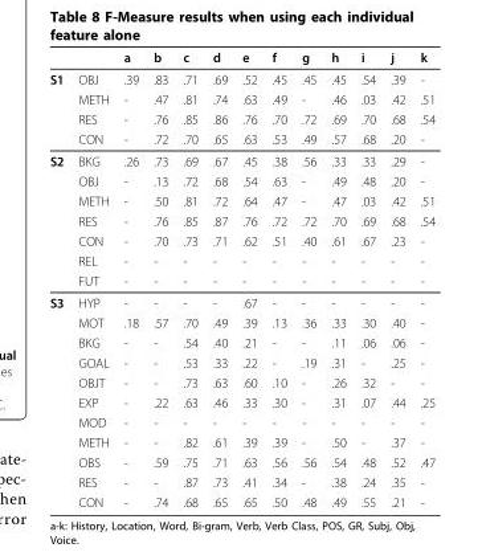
<table><thead><tr><td></td><td></td><td>a</td><td>b</td><td>c</td><td>d</td><td>e</td><td>f</td><td>g</td><td>h</td><td>i</td><td>j</td><td>k</td></tr></thead><tbody><tr><td rowspan="4">S1</td><td>OBJ</td><td>.39</td><td>.83</td><td>.71</td><td>.69</td><td>.52</td><td>.45</td><td>.45</td><td>.45</td><td>.54</td><td>.39</td><td>-</td></tr><tr><td>METH</td><td>-</td><td>.47</td><td>.81</td><td>.74</td><td>.63</td><td>.49</td><td>-</td><td>.46</td><td>.03</td><td>.42</td><td>.51</td></tr><tr><td>RES</td><td>-</td><td>.76</td><td>.85</td><td>.86</td><td>.76</td><td>.70</td><td>.72</td><td>.69</td><td>.70</td><td>.68</td><td>.54</td></tr><tr><td>CON</td><td>-</td><td>.72</td><td>.70</td><td>.65</td><td>.63</td><td>.53</td><td>.49</td><td>.57</td><td>.68</td><td>.20</td><td>-</td></tr><tr><td rowspan="7">S2</td><td>BKG</td><td>.26</td><td>.73</td><td>.69</td><td>.67</td><td>.45</td><td>.38</td><td>.56</td><td>.33</td><td>.33</td><td>.29</td><td>-</td></tr><tr><td>OBJ</td><td>-</td><td>.13</td><td>.72</td><td>.68</td><td>.54</td><td>.63</td><td>-</td><td>.49</td><td>.48</td><td>.20</td><td>-</td></tr><tr><td>METH</td><td>-</td><td>.50</td><td>.81</td><td>.72</td><td>.64</td><td>.47</td><td>-</td><td>.47</td><td>.03</td><td>.42</td><td>.51</td></tr><tr><td>RES</td><td>-</td><td>.76</td><td>.85</td><td>.87</td><td>.76</td><td>.72</td><td>.72</td><td>.70</td><td>.69</td><td>.68</td><td>.54</td></tr><tr><td>CON</td><td>-</td><td>.70</td><td>.73</td><td>.71</td><td>.62</td><td>.51</td><td>.40</td><td>.61</td><td>.67</td><td>.23</td><td>-</td></tr><tr><td>REL</td><td>-</td><td>-</td><td>-</td><td>-</td><td>-</td><td>-</td><td>-</td><td>-</td><td>-</td><td>-</td><td>-</td></tr><tr><td>FUT</td><td>-</td><td>-</td><td>-</td><td>-</td><td>-</td><td>-</td><td>-</td><td>-</td><td>-</td><td>-</td><td>-</td></tr><tr><td rowspan="11">S3</td><td>HYP</td><td>-</td><td>-</td><td>-</td><td>-</td><td>.67</td><td>-</td><td>-</td><td>-</td><td>-</td><td>-</td><td>-</td></tr><tr><td>MOT</td><td>.18</td><td>.57</td><td>.70</td><td>.49</td><td>.39</td><td>.13</td><td>.36</td><td>.33</td><td>.30</td><td>.40</td><td>-</td></tr><tr><td>BKG</td><td>-</td><td>-</td><td>.54</td><td>.40</td><td>.21</td><td>-</td><td>-</td><td>.11</td><td>.06</td><td>.06</td><td>-</td></tr><tr><td>GOAL</td><td>-</td><td>-</td><td>.53</td><td>.33</td><td>.22</td><td>-</td><td>.19</td><td>.31</td><td>-</td><td>.25</td><td>-</td></tr><tr><td>OBJT</td><td>-</td><td>-</td><td>.73</td><td>.63</td><td>.60</td><td>.10</td><td>-</td><td>.26</td><td>.32</td><td>-</td><td>-</td></tr><tr><td>EXP</td><td>-</td><td>.22</td><td>.63</td><td>.46</td><td>.33</td><td>.30</td><td>-</td><td>.31</td><td>.07</td><td>.44</td><td>.25</td></tr><tr><td>MOD</td><td>-</td><td>-</td><td>-</td><td>-</td><td>-</td><td>-</td><td>-</td><td>-</td><td>-</td><td>-</td><td>-</td></tr><tr><td>METH</td><td>-</td><td>-</td><td>.82</td><td>.61</td><td>.39</td><td>.39</td><td>-</td><td>.50</td><td>-</td><td>.37</td><td>-</td></tr><tr><td>OBS</td><td>-</td><td>.59</td><td>.75</td><td>.71</td><td>.63</td><td>.56</td><td>.56</td><td>.54</td><td>.48</td><td>.52</td><td>.47</td></tr><tr><td>RES</td><td>-</td><td>-</td><td>.87</td><td>.73</td><td>.41</td><td>.34</td><td>-</td><td>.38</td><td>.24</td><td>.35</td><td>-</td></tr><tr><td>CON</td><td>-</td><td>.74</td><td>.68</td><td>.65</td><td>.65</td><td>.50</td><td>.48</td><td>.49</td><td>.55</td><td>.21</td><td>-</td></tr></tbody></table>